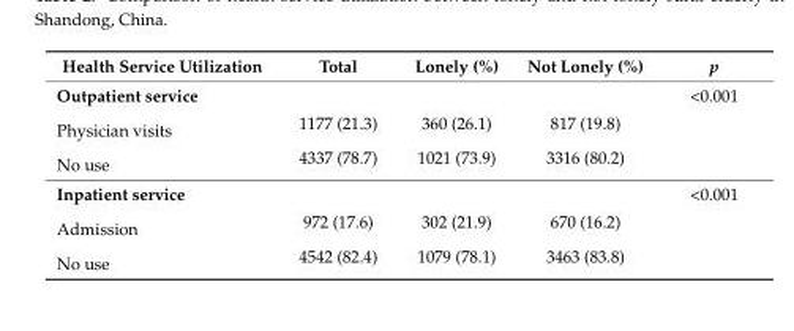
<table><thead><tr><td>Health Service Utilization</td><td>Total</td><td>Lonely (%)</td><td>Not Lonely (%)</td><td>p</td></tr></thead><tbody><tr><td>Outpatient service</td><td></td><td></td><td></td><td>&lt;0.001</td></tr><tr><td>Physician visits</td><td>1177 (21.3)</td><td>360 (26.1)</td><td>817 (19.8)</td><td></td></tr><tr><td>No use</td><td>4337 (78.7)</td><td>1021 (73.9)</td><td>3316 (80.2)</td><td></td></tr><tr><td>Inpatient service</td><td></td><td></td><td></td><td>&lt;0.001</td></tr><tr><td>Admission</td><td>972 (17.6)</td><td>302 (21.9)</td><td>670 (16.2)</td><td></td></tr><tr><td>No use</td><td>4542 (82.4)</td><td>1079 (78.1)</td><td>3463 (83.8)</td><td></td></tr></tbody></table>